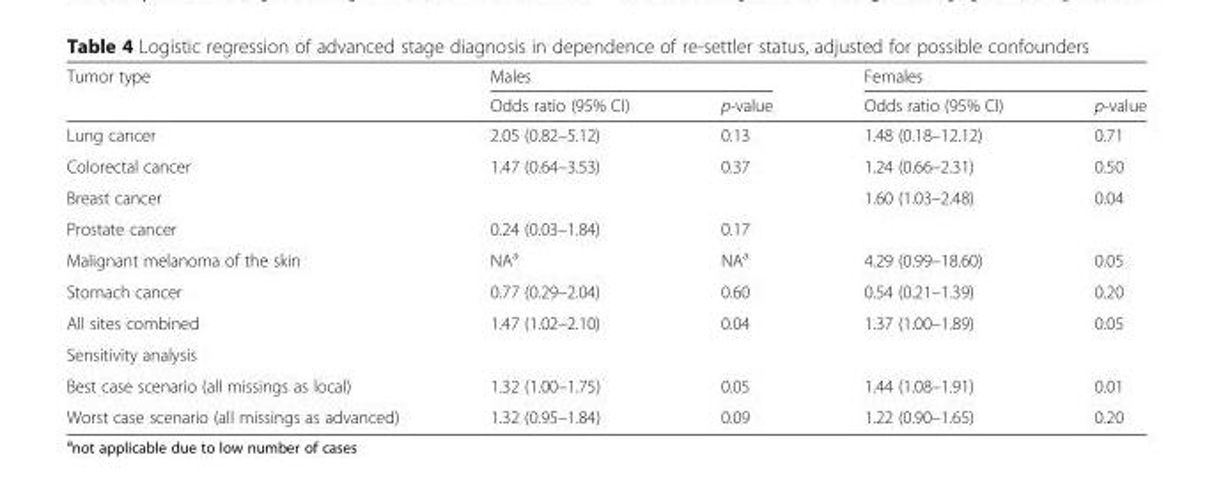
<table><thead><tr><td rowspan="2">Tumor type</td><td colspan="2">Males</td><td colspan="2">Females</td></tr><tr><td>Odds ratio (95% CI)</td><td>p-value</td><td>Odds ratio (95% CI)</td><td>p-value</td></tr></thead><tbody><tr><td>Lung cancer</td><td>2.05 (0.82–5.12)</td><td>0.13</td><td>1.48 (0.18–12.12)</td><td>0.71</td></tr><tr><td>Colorectal cancer</td><td>1.47 (0.64–3.53)</td><td>0.37</td><td>1.24 (0.66–2.31)</td><td>0.50</td></tr><tr><td>Breast cancer</td><td></td><td></td><td>1.60 (1.03–2.48)</td><td>0.04</td></tr><tr><td>Prostate cancer</td><td>0.24 (0.03–1.84)</td><td>0.17</td><td></td><td></td></tr><tr><td>Malignant melanoma of the skin</td><td>NA<sup>a</sup></td><td>NA<sup>a</sup></td><td>4.29 (0.99–18.60)</td><td>0.05</td></tr><tr><td>Stomach cancer</td><td>0.77 (0.29–2.04)</td><td>0.60</td><td>0.54 (0.21–1.39)</td><td>0.20</td></tr><tr><td>All sites combined</td><td>1.47 (1.02–2.10)</td><td>0.04</td><td>1.37 (1.00–1.89)</td><td>0.05</td></tr><tr><td colspan="5">Sensitivity analysis</td></tr><tr><td>Best case scenario (all missings as local)</td><td>1.32 (1.00–1.75)</td><td>0.05</td><td>1.44 (1.08–1.91)</td><td>0.01</td></tr><tr><td>Worst case scenario (all missings as advanced)</td><td>1.32 (0.95–1.84)</td><td>0.09</td><td>1.22 (0.90–1.65)</td><td>0.20</td></tr></tbody></table>